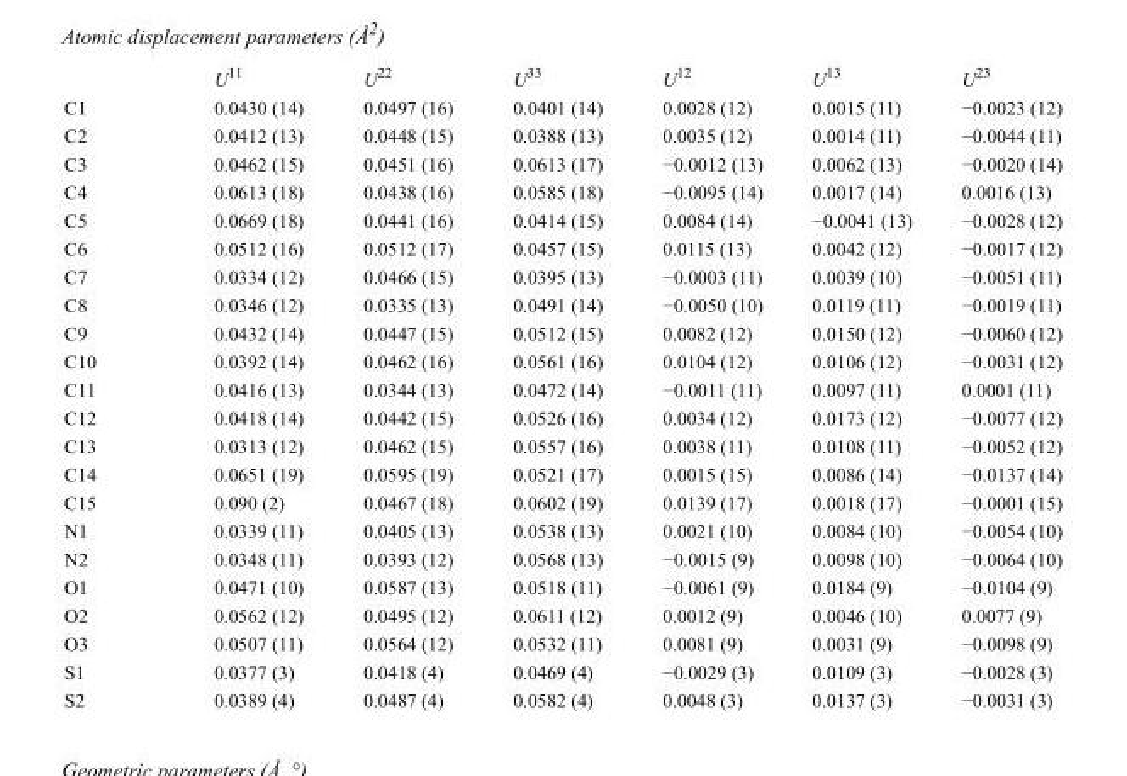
<table><thead><tr><td></td><td>U<sup>11</sup></td><td>U<sup>22</sup></td><td>U<sup>33</sup></td><td>U<sup>12</sup></td><td>U<sup>13</sup></td><td>U<sup>23</sup></td></tr></thead><tbody><tr><td>C1</td><td>0.0430 (14)</td><td>0.0497 (16)</td><td>0.0401 (14)</td><td>0.0028 (12)</td><td>0.0015 (11)</td><td>−0.0023 (12)</td></tr><tr><td>C2</td><td>0.0412 (13)</td><td>0.0448 (15)</td><td>0.0388 (13)</td><td>0.0035 (12)</td><td>0.0014 (11)</td><td>−0.0044 (11)</td></tr><tr><td>C3</td><td>0.0462 (15)</td><td>0.0451 (16)</td><td>0.0613 (17)</td><td>−0.0012 (13)</td><td>0.0062 (13)</td><td>−0.0020 (14)</td></tr><tr><td>C4</td><td>0.0613 (18)</td><td>0.0438 (16)</td><td>0.0585 (18)</td><td>−0.0095 (14)</td><td>0.0017 (14)</td><td>0.0016 (13)</td></tr><tr><td>C5</td><td>0.0669 (18)</td><td>0.0441 (16)</td><td>0.0414 (15)</td><td>0.0084 (14)</td><td>−0.0041 (13)</td><td>−0.0028 (12)</td></tr><tr><td>C6</td><td>0.0512 (16)</td><td>0.0512 (17)</td><td>0.0457 (15)</td><td>0.0115 (13)</td><td>0.0042 (12)</td><td>−0.0017 (12)</td></tr><tr><td>C7</td><td>0.0334 (12)</td><td>0.0466 (15)</td><td>0.0395 (13)</td><td>−0.0003 (11)</td><td>0.0039 (10)</td><td>−0.0051 (11)</td></tr><tr><td>C8</td><td>0.0346 (12)</td><td>0.0335 (13)</td><td>0.0491 (14)</td><td>−0.0050 (10)</td><td>0.0119 (11)</td><td>−0.0019 (11)</td></tr><tr><td>C9</td><td>0.0432 (14)</td><td>0.0447 (15)</td><td>0.0512 (15)</td><td>0.0082 (12)</td><td>0.0150 (12)</td><td>−0.0060 (12)</td></tr><tr><td>C10</td><td>0.0392 (14)</td><td>0.0462 (16)</td><td>0.0561 (16)</td><td>0.0104 (12)</td><td>0.0106 (12)</td><td>−0.0031 (12)</td></tr><tr><td>C11</td><td>0.0416 (13)</td><td>0.0344 (13)</td><td>0.0472 (14)</td><td>−0.0011 (11)</td><td>0.0097 (11)</td><td>0.0001 (11)</td></tr><tr><td>C12</td><td>0.0418 (14)</td><td>0.0442 (15)</td><td>0.0526 (16)</td><td>0.0034 (12)</td><td>0.0173 (12)</td><td>−0.0077 (12)</td></tr><tr><td>C13</td><td>0.0313 (12)</td><td>0.0462 (15)</td><td>0.0557 (16)</td><td>0.0038 (11)</td><td>0.0108 (11)</td><td>−0.0052 (12)</td></tr><tr><td>C14</td><td>0.0651 (19)</td><td>0.0595 (19)</td><td>0.0521 (17)</td><td>0.0015 (15)</td><td>0.0086 (14)</td><td>−0.0137 (14)</td></tr><tr><td>C15</td><td>0.090 (2)</td><td>0.0467 (18)</td><td>0.0602 (19)</td><td>0.0139 (17)</td><td>0.0018 (17)</td><td>−0.0001 (15)</td></tr><tr><td>N1</td><td>0.0339 (11)</td><td>0.0405 (13)</td><td>0.0538 (13)</td><td>0.0021 (10)</td><td>0.0084 (10)</td><td>−0.0054 (10)</td></tr><tr><td>N2</td><td>0.0348 (11)</td><td>0.0393 (12)</td><td>0.0568 (13)</td><td>−0.0015 (9)</td><td>0.0098 (10)</td><td>−0.0064 (10)</td></tr><tr><td>O1</td><td>0.0471 (10)</td><td>0.0587 (13)</td><td>0.0518 (11)</td><td>−0.0061 (9)</td><td>0.0184 (9)</td><td>−0.0104 (9)</td></tr><tr><td>O2</td><td>0.0562 (12)</td><td>0.0495 (12)</td><td>0.0611 (12)</td><td>0.0012 (9)</td><td>0.0046 (10)</td><td>0.0077 (9)</td></tr><tr><td>O3</td><td>0.0507 (11)</td><td>0.0564 (12)</td><td>0.0532 (11)</td><td>0.0081 (9)</td><td>0.0031 (9)</td><td>−0.0098 (9)</td></tr><tr><td>S1</td><td>0.0377 (3)</td><td>0.0418 (4)</td><td>0.0469 (4)</td><td>−0.0029 (3)</td><td>0.0109 (3)</td><td>−0.0028 (3)</td></tr><tr><td>S2</td><td>0.0389 (4)</td><td>0.0487 (4)</td><td>0.0582 (4)</td><td>0.0048 (3)</td><td>0.0137 (3)</td><td>−0.0031 (3)</td></tr></tbody></table>